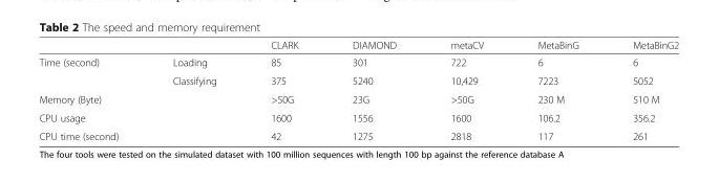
<table><thead><tr><td></td><td></td><td>CLARK</td><td>DIAMOND</td><td>metaCV</td><td>MetaBinG</td><td>MetaBinG2</td></tr></thead><tbody><tr><td rowspan="2">Time (second)</td><td>Loading</td><td>85</td><td>301</td><td>722</td><td>6</td><td>6</td></tr><tr><td>Classifying</td><td>375</td><td>5240</td><td>10,429</td><td>7223</td><td>5052</td></tr><tr><td>Memory (Byte)</td><td></td><td>&gt;50G</td><td>23G</td><td>&gt;50G</td><td>230 M</td><td>510 M</td></tr><tr><td>CPU usage</td><td></td><td>1600</td><td>1556</td><td>1600</td><td>106.2</td><td>356.2</td></tr><tr><td>CPU time (second)</td><td></td><td>42</td><td>1275</td><td>2818</td><td>117</td><td>261</td></tr></tbody></table>